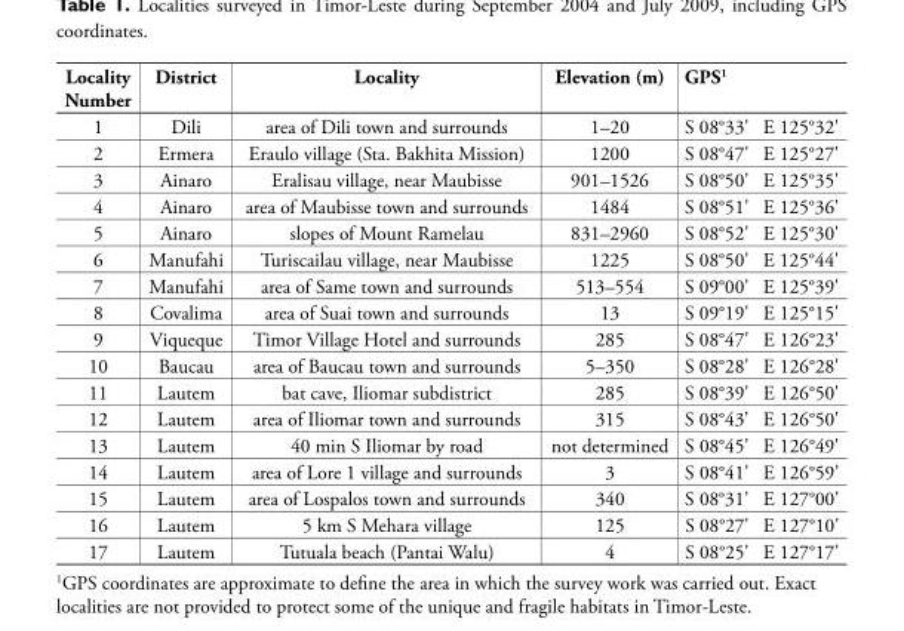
<table><thead><tr><td>Locality Number</td><td>District</td><td>Locality</td><td>Elevation (m)</td><td>GPS1</td></tr></thead><tbody><tr><td>1</td><td>Dili</td><td>area of Dili town and surrounds</td><td>1–20</td><td>S 08°33&#x27; E 125°32&#x27;</td></tr><tr><td>2</td><td>Ermera</td><td>Eraulo village (Sta. Bakhita Mission)</td><td>1200</td><td>S 08°47&#x27; E 125°27&#x27;</td></tr><tr><td>3</td><td>Ainaro</td><td>Eralisau village, near Maubisse</td><td>901–1526</td><td>S 08°50&#x27; E 125°35&#x27;</td></tr><tr><td>4</td><td>Ainaro</td><td>area of Maubisse town and surrounds</td><td>1484</td><td>S 08°51&#x27; E 125°36&#x27;</td></tr><tr><td>5</td><td>Ainaro</td><td>slopes of Mount Ramelau</td><td>831–2960</td><td>S 08°52&#x27; E 125°30&#x27;</td></tr><tr><td>6</td><td>Manufahi</td><td>Turiscailau village, near Maubisse</td><td>1225</td><td>S 08°50&#x27; E 125°44&#x27;</td></tr><tr><td>7</td><td>Manufahi</td><td>area of Same town and surrounds</td><td>513–554</td><td>S 09°00&#x27; E 125°39&#x27;</td></tr><tr><td>8</td><td>Covalima</td><td>area of Suai town and surrounds</td><td>13</td><td>S 09°19&#x27; E 125°15&#x27;</td></tr><tr><td>9</td><td>Viqueque</td><td>Timor Village Hotel and surrounds</td><td>285</td><td>S 08°47&#x27; E 126°23&#x27;</td></tr><tr><td>10</td><td>Baucau</td><td>area of Baucau town and surrounds</td><td>5–350</td><td>S 08°28&#x27; E 126°28&#x27;</td></tr><tr><td>11</td><td>Lautem</td><td>bat cave, Iliomar subdistrict</td><td>285</td><td>S 08°39&#x27; E 126°50&#x27;</td></tr><tr><td>12</td><td>Lautem</td><td>area of Iliomar town and surrounds</td><td>315</td><td>S 08°43&#x27; E 126°50&#x27;</td></tr><tr><td>13</td><td>Lautem</td><td>40 min S Iliomar by road</td><td>not determined</td><td>S 08°45&#x27; E 126°49&#x27;</td></tr><tr><td>14</td><td>Lautem</td><td>area of Lore 1 village and surrounds</td><td>3</td><td>S 08°41&#x27; E 126°59&#x27;</td></tr><tr><td>15</td><td>Lautem</td><td>area of Lospalos town and surrounds</td><td>340</td><td>S 08°31&#x27; E 127°00&#x27;</td></tr><tr><td>16</td><td>Lautem</td><td>5 km S Mehara village</td><td>125</td><td>S 08°27&#x27; E 127°10&#x27;</td></tr><tr><td>17</td><td>Lautem</td><td>Tutuala beach (Pantai Walu)</td><td>4</td><td>S 08°25&#x27; E 127°17&#x27;</td></tr></tbody></table>